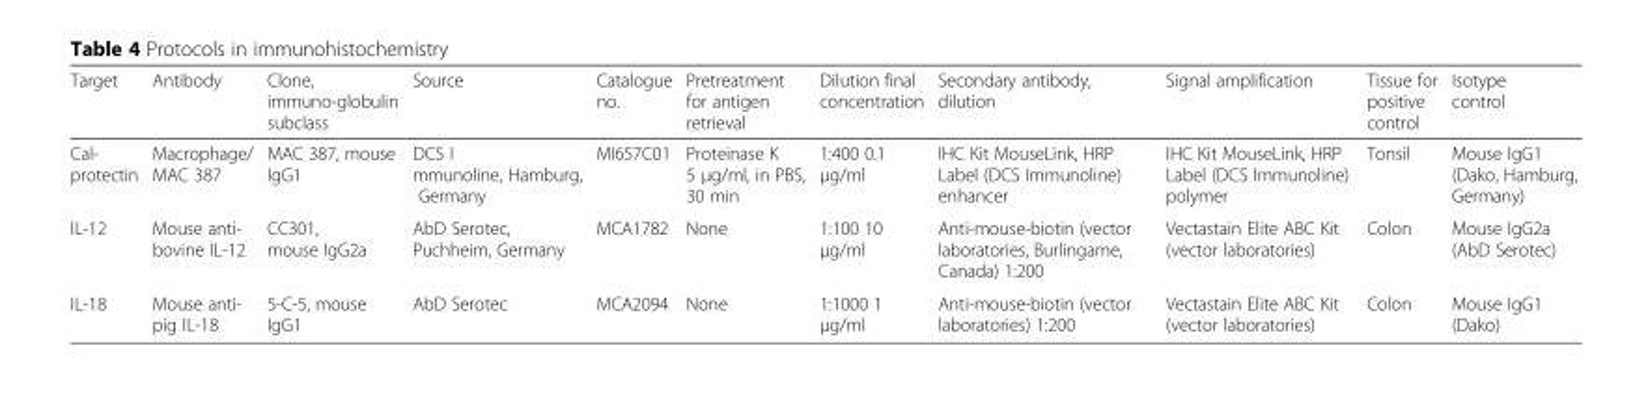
<table><thead><tr><td>Target</td><td>Antibody</td><td>Clone, immuno-globulin subclass</td><td>Source</td><td>Catalogue no.</td><td>Pretreatment for antigen retrieval</td><td>Dilution final concentration</td><td>Secondary antibody, dilution</td><td>Signal amplification</td><td>Tissue for positive control</td><td>Isotype control</td></tr></thead><tbody><tr><td>Cal- protectin</td><td>Macrophage/ MAC 387</td><td>MAC 387, mouse IgG1</td><td>DCS I mmunoline, Hamburg, Germany</td><td>MI657C01</td><td>Proteinase K 5 μg/ml, in PBS, 30 min</td><td>1:400 0.1 μg/ml</td><td>IHC Kit MouseLink, HRP Label (DCS Immunoline) enhancer</td><td>IHC Kit MouseLink, HRP Label (DCS Immunoline) polymer</td><td>Tonsil</td><td>Mouse IgG1 (Dako, Hamburg, Germany)</td></tr><tr><td>IL-12</td><td>Mouse anti- bovine IL-12</td><td>CC301, mouse IgG2a</td><td>AbD Serotec, Puchheim, Germany</td><td>MCA1782</td><td>None</td><td>1:100 10 μg/ml</td><td>Anti-mouse-biotin (vector laboratories, Burlingame, Canada) 1:200</td><td>Vectastain Elite ABC Kit (vector laboratories)</td><td>Colon</td><td>Mouse IgG2a (AbD Serotec)</td></tr><tr><td>IL-18</td><td>Mouse anti- pig IL-18</td><td>5-C-5, mouse IgG1</td><td>AbD Serotec</td><td>MCA2094</td><td>None</td><td>1:1000 1 μg/ml</td><td>Anti-mouse-biotin (vector laboratories) 1:200</td><td>Vectastain Elite ABC Kit (vector laboratories)</td><td>Colon</td><td>Mouse IgG1 (Dako)</td></tr></tbody></table>